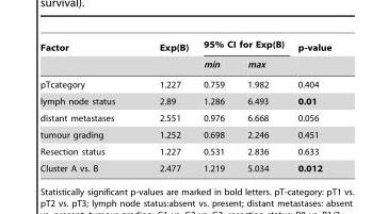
<table><thead><tr><td rowspan="2">Factor</td><td rowspan="2">Exp(B)</td><td colspan="2">95% CI for Exp(B)</td><td rowspan="2">p-value</td></tr><tr><td>min</td><td>max</td></tr></thead><tbody><tr><td>pTcategory</td><td>1.227</td><td>0.759</td><td>1.982</td><td>0.404</td></tr><tr><td>lymph node status</td><td>2.89</td><td>1.286</td><td>6.493</td><td>0.01</td></tr><tr><td>distant metastases</td><td>2.551</td><td>0.976</td><td>6.668</td><td>0.056</td></tr><tr><td>tumour grading</td><td>1.252</td><td>0.698</td><td>2.246</td><td>0.451</td></tr><tr><td>Resection status</td><td>1.227</td><td>0.531</td><td>2.836</td><td>0.633</td></tr><tr><td>Cluster A vs. B</td><td>2.477</td><td>1.219</td><td>5.034</td><td>0.012</td></tr></tbody></table>